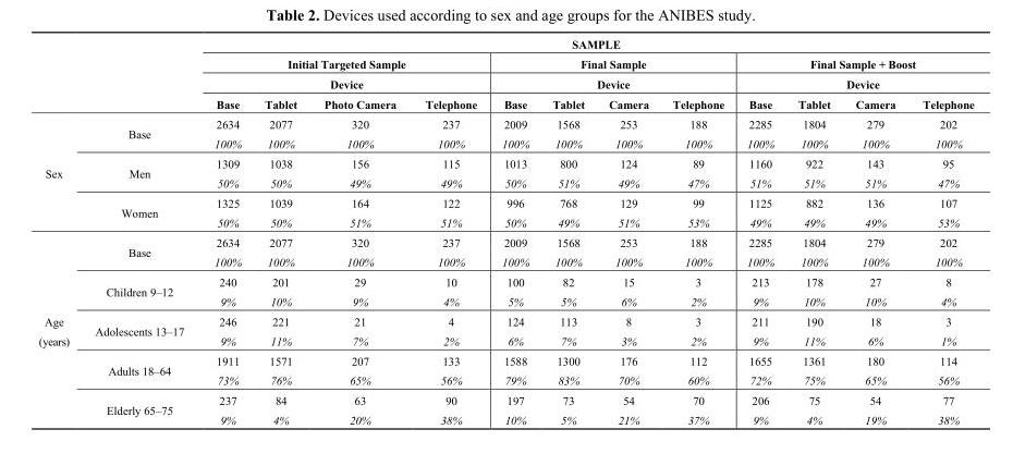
<table><thead><tr><td rowspan="4"></td><td rowspan="4"></td><td colspan="12">SAMPLE</td></tr><tr><td rowspan="2" colspan="4">Initial Targeted Sample Device</td><td rowspan="2" colspan="4">Final Sample Device</td><td rowspan="2" colspan="4">Final Sample + Boost Device</td></tr><tr></tr><tr><td>Base</td><td>Tablet</td><td>Photo Camera</td><td>Telephone</td><td>Base</td><td>Tablet</td><td>Camera</td><td>Telephone</td><td>Base</td><td>Tablet</td><td>Camera</td><td>Telephone</td></tr></thead><tbody><tr><td rowspan="6">Sex</td><td rowspan="2">Base</td><td>2634</td><td>2077</td><td>320</td><td>237</td><td>2009</td><td>1568</td><td>253</td><td>188</td><td>2285</td><td>1804</td><td>279</td><td>202</td></tr><tr><td>100%</td><td>100%</td><td>100%</td><td>100%</td><td>100%</td><td>100%</td><td>100%</td><td>100%</td><td>100%</td><td>100%</td><td>100%</td><td>100%</td></tr><tr><td rowspan="2">Men</td><td>1309</td><td>1038</td><td>156</td><td>115</td><td>1013</td><td>800</td><td>124</td><td>89</td><td>1160</td><td>922</td><td>143</td><td>95</td></tr><tr><td>50%</td><td>50%</td><td>49%</td><td>49%</td><td>50%</td><td>51%</td><td>49%</td><td>47%</td><td>51%</td><td>51%</td><td>51%</td><td>47%</td></tr><tr><td rowspan="2">Women</td><td>1325</td><td>1039</td><td>164</td><td>122</td><td>996</td><td>768</td><td>129</td><td>99</td><td>1125</td><td>882</td><td>136</td><td>107</td></tr><tr><td>50%</td><td>50%</td><td>51%</td><td>51%</td><td>50%</td><td>49%</td><td>51%</td><td>53%</td><td>49%</td><td>49%</td><td>49%</td><td>53%</td></tr><tr><td rowspan="10">Age (years)</td><td rowspan="2">Base</td><td>2634</td><td>2077</td><td>320</td><td>237</td><td>2009</td><td>1568</td><td>253</td><td>188</td><td>2285</td><td>1804</td><td>279</td><td>202</td></tr><tr><td>100%</td><td>100%</td><td>100%</td><td>100%</td><td>100%</td><td>100%</td><td>100%</td><td>100%</td><td>100%</td><td>100%</td><td>100%</td><td>100%</td></tr><tr><td rowspan="2">Children 9–12</td><td>240</td><td>201</td><td>29</td><td>10</td><td>100</td><td>82</td><td>15</td><td>3</td><td>213</td><td>178</td><td>27</td><td>8</td></tr><tr><td>9%</td><td>10%</td><td>9%</td><td>4%</td><td>5%</td><td>5%</td><td>6%</td><td>2%</td><td>9%</td><td>10%</td><td>10%</td><td>4%</td></tr><tr><td rowspan="2">Adolescents 13–17</td><td>246</td><td>221</td><td>21</td><td>4</td><td>124</td><td>113</td><td>8</td><td>3</td><td>211</td><td>190</td><td>18</td><td>3</td></tr><tr><td>9%</td><td>11%</td><td>7%</td><td>2%</td><td>6%</td><td>7%</td><td>3%</td><td>2%</td><td>9%</td><td>11%</td><td>6%</td><td>1%</td></tr><tr><td rowspan="2">Adults 18–64</td><td>1911</td><td>1571</td><td>207</td><td>133</td><td>1588</td><td>1300</td><td>176</td><td>112</td><td>1655</td><td>1361</td><td>180</td><td>114</td></tr><tr><td>73%</td><td>76%</td><td>65%</td><td>56%</td><td>79%</td><td>83%</td><td>70%</td><td>60%</td><td>72%</td><td>75%</td><td>65%</td><td>56%</td></tr><tr><td rowspan="2">Elderly 65–75</td><td>237</td><td>84</td><td>63</td><td>90</td><td>197</td><td>73</td><td>54</td><td>70</td><td>206</td><td>75</td><td>54</td><td>77</td></tr><tr><td>9%</td><td>4%</td><td>20%</td><td>38%</td><td>10%</td><td>5%</td><td>21%</td><td>37%</td><td>9%</td><td>4%</td><td>19%</td><td>38%</td></tr></tbody></table>